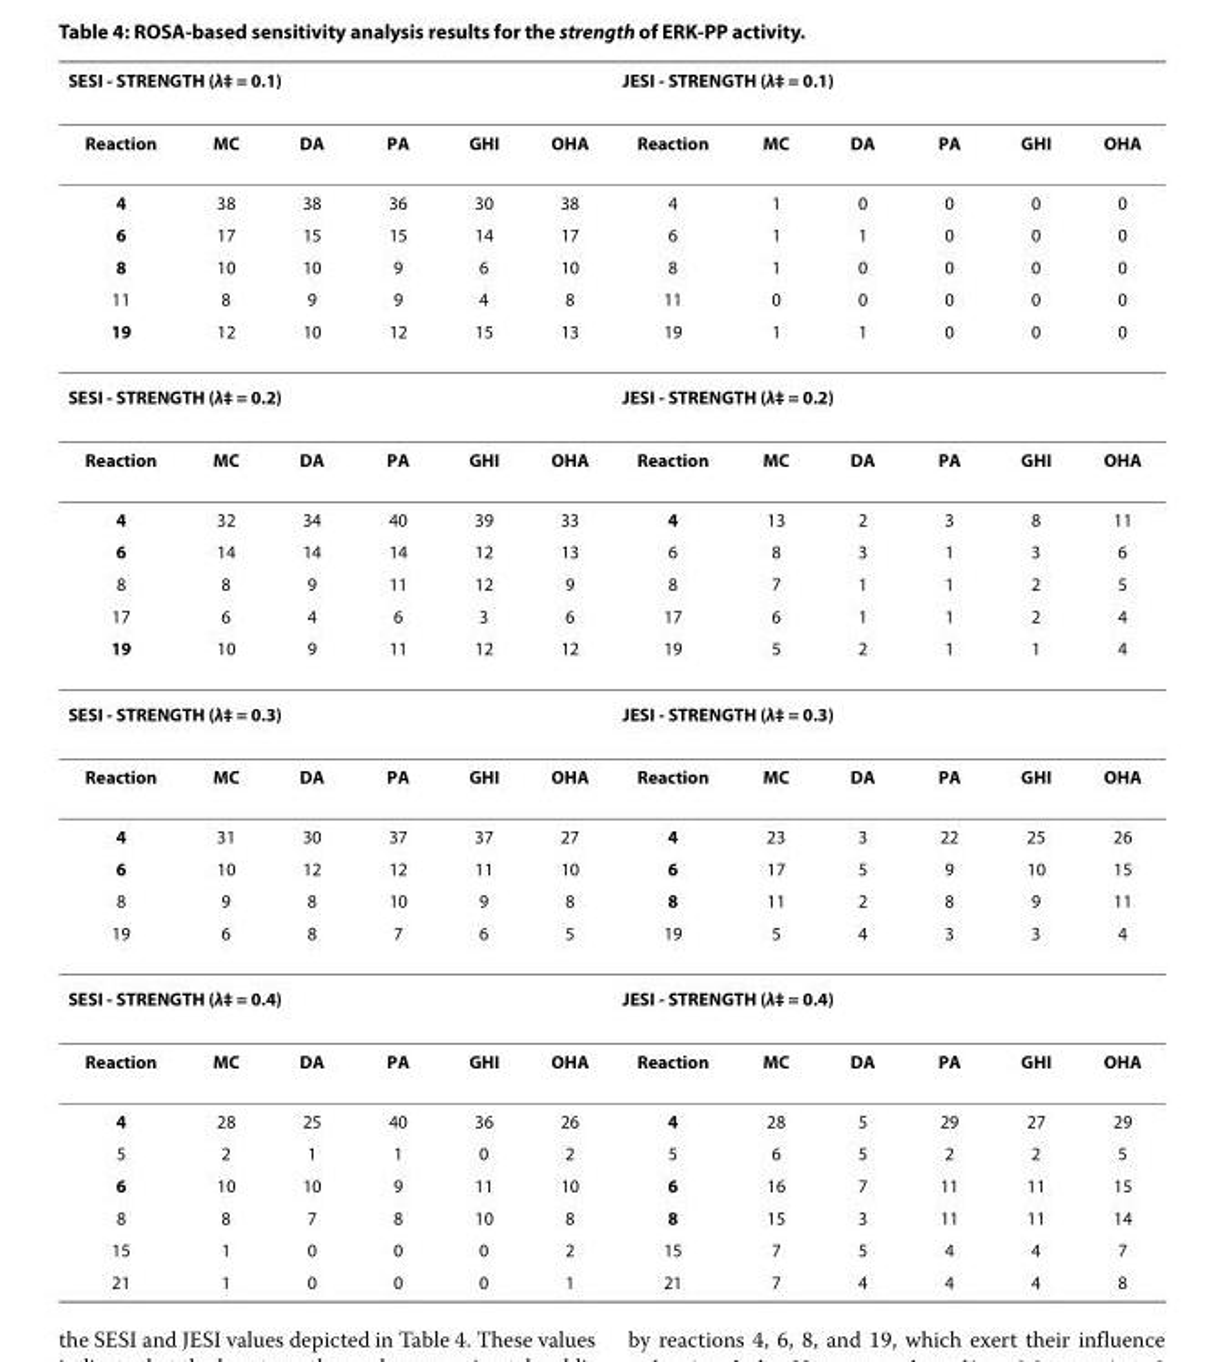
<table><thead><tr><td colspan="6">SESI - STRENGTH (λ<sup>‡</sup> = 0.1)</td><td colspan="6">JESI - STRENGTH (λ<sup>‡</sup> = 0.1)</td></tr><tr><td>Reaction</td><td>MC</td><td>DA</td><td>PA</td><td>GHI</td><td>OHA</td><td>Reaction</td><td>MC</td><td>DA</td><td>PA</td><td>GHI</td><td>OHA</td></tr></thead><tbody><tr><td>4</td><td>38</td><td>38</td><td>36</td><td>30</td><td>38</td><td>4</td><td>1</td><td>0</td><td>0</td><td>0</td><td>0</td></tr><tr><td>6</td><td>17</td><td>15</td><td>15</td><td>14</td><td>17</td><td>6</td><td>1</td><td>1</td><td>0</td><td>0</td><td>0</td></tr><tr><td>8</td><td>10</td><td>10</td><td>9</td><td>6</td><td>10</td><td>8</td><td>1</td><td>0</td><td>0</td><td>0</td><td>0</td></tr><tr><td>11</td><td>8</td><td>9</td><td>9</td><td>4</td><td>8</td><td>11</td><td>0</td><td>0</td><td>0</td><td>0</td><td>0</td></tr><tr><td>19</td><td>12</td><td>10</td><td>12</td><td>15</td><td>13</td><td>19</td><td>1</td><td>1</td><td>0</td><td>0</td><td>0</td></tr><tr><td colspan="6">SESI - STRENGTH (λ<sup>‡</sup> = 0.2)</td><td colspan="6">JESI - STRENGTH (λ<sup>‡</sup> = 0.2)</td></tr><tr><td>Reaction</td><td>MC</td><td>DA</td><td>PA</td><td>GHI</td><td>OHA</td><td>Reaction</td><td>MC</td><td>DA</td><td>PA</td><td>GHI</td><td>OHA</td></tr><tr><td>4</td><td>32</td><td>34</td><td>40</td><td>39</td><td>33</td><td>4</td><td>13</td><td>2</td><td>3</td><td>8</td><td>11</td></tr><tr><td>6</td><td>14</td><td>14</td><td>14</td><td>12</td><td>13</td><td>6</td><td>8</td><td>3</td><td>1</td><td>3</td><td>6</td></tr><tr><td>8</td><td>8</td><td>9</td><td>11</td><td>12</td><td>9</td><td>8</td><td>7</td><td>1</td><td>1</td><td>2</td><td>5</td></tr><tr><td>17</td><td>6</td><td>4</td><td>6</td><td>3</td><td>6</td><td>17</td><td>6</td><td>1</td><td>1</td><td>2</td><td>4</td></tr><tr><td>19</td><td>10</td><td>9</td><td>11</td><td>12</td><td>12</td><td>19</td><td>5</td><td>2</td><td>1</td><td>1</td><td>4</td></tr><tr><td colspan="6">SESI - STRENGTH (λ<sup>‡</sup> = 0.3)</td><td colspan="6">JESI - STRENGTH (λ<sup>‡</sup> = 0.3)</td></tr><tr><td>Reaction</td><td>MC</td><td>DA</td><td>PA</td><td>GHI</td><td>OHA</td><td>Reaction</td><td>MC</td><td>DA</td><td>PA</td><td>GHI</td><td>OHA</td></tr><tr><td>4</td><td>31</td><td>30</td><td>37</td><td>37</td><td>27</td><td>4</td><td>23</td><td>3</td><td>22</td><td>25</td><td>26</td></tr><tr><td>6</td><td>10</td><td>12</td><td>12</td><td>11</td><td>10</td><td>6</td><td>17</td><td>5</td><td>9</td><td>10</td><td>15</td></tr><tr><td>8</td><td>9</td><td>8</td><td>10</td><td>9</td><td>8</td><td>8</td><td>11</td><td>2</td><td>8</td><td>9</td><td>11</td></tr><tr><td>19</td><td>6</td><td>8</td><td>7</td><td>6</td><td>5</td><td>19</td><td>5</td><td>4</td><td>3</td><td>3</td><td>4</td></tr><tr><td colspan="6">SESI - STRENGTH (λ<sup>‡</sup> = 0.4)</td><td colspan="6">JESI - STRENGTH (λ<sup>‡</sup> = 0.4)</td></tr><tr><td>Reaction</td><td>MC</td><td>DA</td><td>PA</td><td>GHI</td><td>OHA</td><td>Reaction</td><td>MC</td><td>DA</td><td>PA</td><td>GHI</td><td>OHA</td></tr><tr><td>4</td><td>28</td><td>25</td><td>40</td><td>36</td><td>26</td><td>4</td><td>28</td><td>5</td><td>29</td><td>27</td><td>29</td></tr><tr><td>5</td><td>2</td><td>1</td><td>1</td><td>0</td><td>2</td><td>5</td><td>6</td><td>5</td><td>2</td><td>2</td><td>5</td></tr><tr><td>6</td><td>10</td><td>10</td><td>9</td><td>11</td><td>10</td><td>6</td><td>16</td><td>7</td><td>11</td><td>11</td><td>15</td></tr><tr><td>8</td><td>8</td><td>7</td><td>8</td><td>10</td><td>8</td><td>8</td><td>15</td><td>3</td><td>11</td><td>11</td><td>14</td></tr><tr><td>15</td><td>1</td><td>0</td><td>0</td><td>0</td><td>2</td><td>15</td><td>7</td><td>5</td><td>4</td><td>4</td><td>7</td></tr><tr><td>21</td><td>1</td><td>0</td><td>0</td><td>0</td><td>1</td><td>21</td><td>7</td><td>4</td><td>4</td><td>4</td><td>8</td></tr></tbody></table>